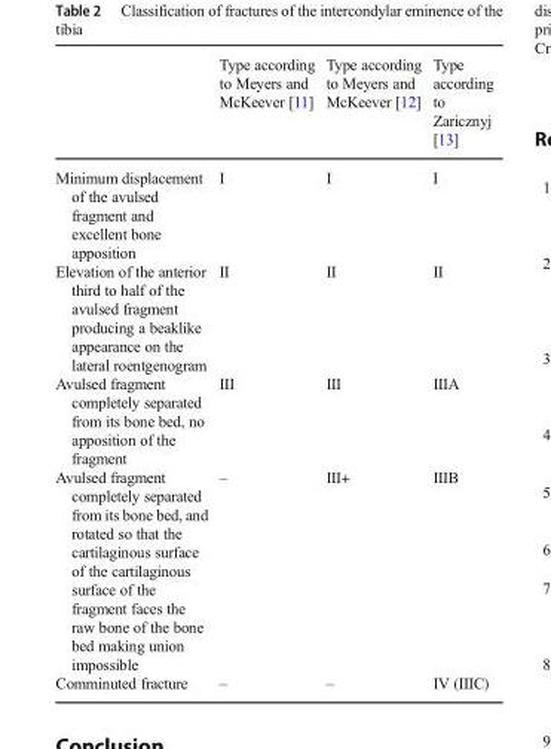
<table><thead><tr><td></td><td>Type according to Meyers and McKeever [11]</td><td>Type according to Meyers and McKeever [12]</td><td>Type according to Zaricznyj [13]</td></tr></thead><tbody><tr><td>Minimum displacement of the avulsed fragment and excellent bone apposition</td><td>I</td><td>I</td><td>I</td></tr><tr><td>Elevation of the anterior third to half of the avulsed fragment producing a beaklike appearance on the lateral roentgenogram</td><td>II</td><td>II</td><td>II</td></tr><tr><td>Avulsed fragment completely separated from its bone bed, no apposition of the fragment</td><td>III</td><td>III</td><td>IIIA</td></tr><tr><td>Avulsed fragment completely separated from its bone bed, and rotated so that the cartilaginous surface of the cartilaginous surface of the fragment faces the raw bone of the bone bed making union impossible</td><td>–</td><td>III+</td><td>IIIB</td></tr><tr><td>Comminuted fracture</td><td>–</td><td>–</td><td>IV (IIIC)</td></tr></tbody></table>